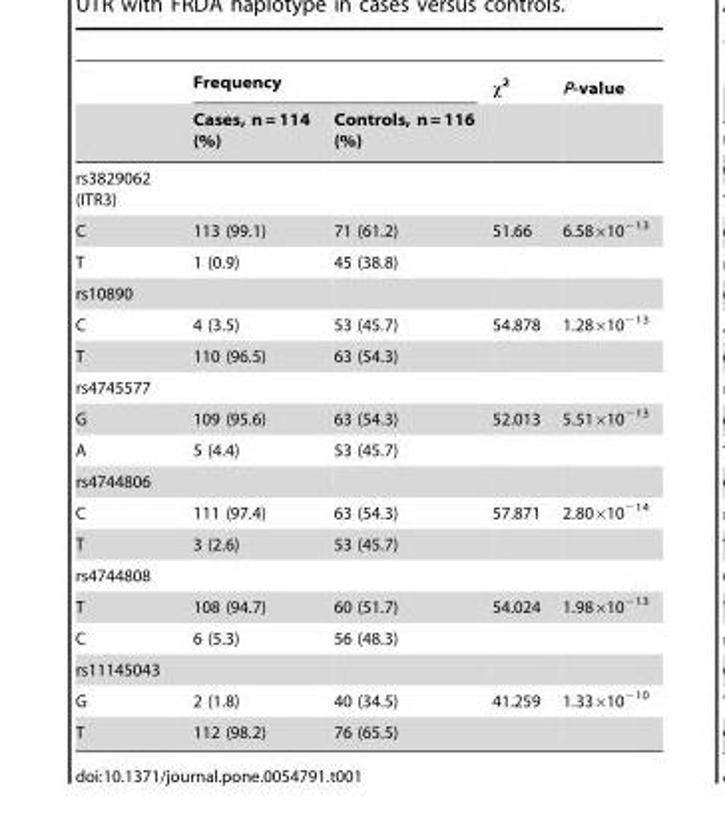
<table><thead><tr><td rowspan="2"></td><td colspan="2">Frequency</td><td rowspan="2">x2</td><td rowspan="2">P-value</td></tr><tr><td>Cases, n = 114 (%)</td><td>Controls, n = 116 (%)</td></tr></thead><tbody><tr><td colspan="5">rs3829062 (ITR3)</td></tr><tr><td>C</td><td>113 (99.1)</td><td>71 (61.2)</td><td>51.66</td><td>6.58×10<sup>−13</sup></td></tr><tr><td>T</td><td>1 (0.9)</td><td>45 (38.8)</td><td></td><td></td></tr><tr><td colspan="5">rs10890</td></tr><tr><td>C</td><td>4 (3.5)</td><td>53 (45.7)</td><td>54.878</td><td>1.28×10<sup>−13</sup></td></tr><tr><td>T</td><td>110 (96.5)</td><td>63 (54.3)</td><td></td><td></td></tr><tr><td colspan="5">rs4745577</td></tr><tr><td>G</td><td>109 (95.6)</td><td>63 (54.3)</td><td>52.013</td><td>5.51×10<sup>−13</sup></td></tr><tr><td>A</td><td>5 (4.4)</td><td>53 (45.7)</td><td></td><td></td></tr><tr><td colspan="5">rs4744806</td></tr><tr><td>C</td><td>111 (97.4)</td><td>63 (54.3)</td><td>57.871</td><td>2.80×10<sup>−14</sup></td></tr><tr><td>T</td><td>3 (2.6)</td><td>53 (45.7)</td><td></td><td></td></tr><tr><td colspan="5">rs4744808</td></tr><tr><td>T</td><td>108 (94.7)</td><td>60 (51.7)</td><td>54.024</td><td>1.98×10<sup>−13</sup></td></tr><tr><td>C</td><td>6 (5.3)</td><td>56 (48.3)</td><td></td><td></td></tr><tr><td colspan="5">rs11145043</td></tr><tr><td>G</td><td>2 (1.8)</td><td>40 (34.5)</td><td>41.259</td><td>1.33×10<sup>−10</sup></td></tr><tr><td>T</td><td>112 (98.2)</td><td>76 (65.5)</td><td></td><td></td></tr></tbody></table>